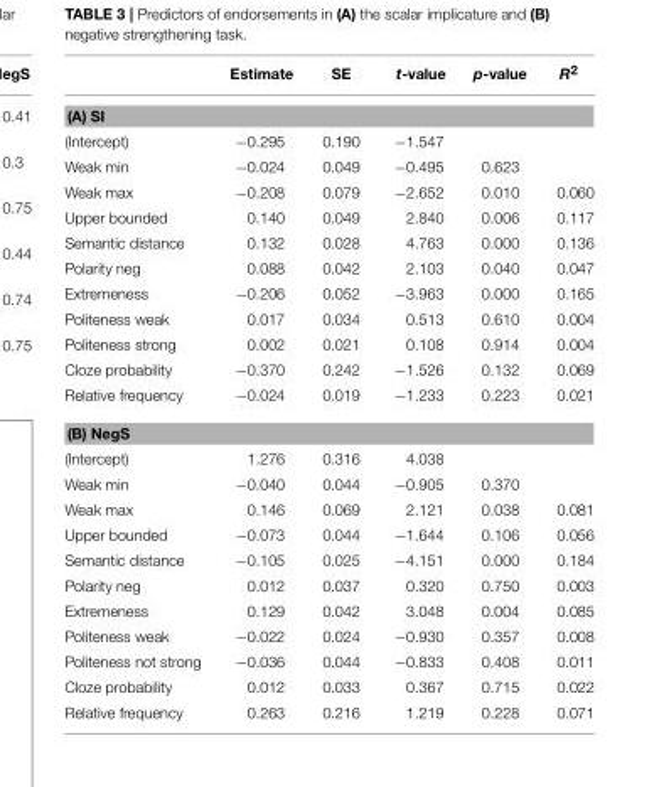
<table><thead><tr><td></td><td>Estimate</td><td>SE</td><td>t-value</td><td>p-value</td><td>R<sup>2</sup></td></tr></thead><tbody><tr><td colspan="6">(A) SI</td></tr><tr><td>(Intercept)</td><td>−0.295</td><td>0.190</td><td>−1.547</td><td></td><td></td></tr><tr><td>Weak min</td><td>−0.024</td><td>0.049</td><td>−0.495</td><td>0.623</td><td></td></tr><tr><td>Weak max</td><td>−0.208</td><td>0.079</td><td>−2.652</td><td>0.010</td><td>0.060</td></tr><tr><td>Upper bounded</td><td>0.140</td><td>0.049</td><td>2.840</td><td>0.006</td><td>0.117</td></tr><tr><td>Semantic distance</td><td>0.132</td><td>0.028</td><td>4.763</td><td>0.000</td><td>0.136</td></tr><tr><td>Polarity neg</td><td>0.088</td><td>0.042</td><td>2.103</td><td>0.040</td><td>0.047</td></tr><tr><td>Extremeness</td><td>−0.206</td><td>0.052</td><td>−3.963</td><td>0.000</td><td>0.165</td></tr><tr><td>Politeness weak</td><td>0.017</td><td>0.034</td><td>0.513</td><td>0.610</td><td>0.004</td></tr><tr><td>Politeness strong</td><td>0.002</td><td>0.021</td><td>0.108</td><td>0.914</td><td>0.004</td></tr><tr><td>Cloze probability</td><td>−0.370</td><td>0.242</td><td>−1.526</td><td>0.132</td><td>0.069</td></tr><tr><td>Relative frequency</td><td>−0.024</td><td>0.019</td><td>−1.233</td><td>0.223</td><td>0.021</td></tr><tr><td colspan="6">(B) NegS</td></tr><tr><td>(Intercept)</td><td>1.276</td><td>0.316</td><td>4.038</td><td></td><td></td></tr><tr><td>Weak min</td><td>−0.040</td><td>0.044</td><td>−0.905</td><td>0.370</td><td></td></tr><tr><td>Weak max</td><td>0.146</td><td>0.069</td><td>2.121</td><td>0.038</td><td>0.081</td></tr><tr><td>Upper bounded</td><td>−0.073</td><td>0.044</td><td>−1.644</td><td>0.106</td><td>0.056</td></tr><tr><td>Semantic distance</td><td>−0.105</td><td>0.025</td><td>−4.151</td><td>0.000</td><td>0.184</td></tr><tr><td>Polarity neg</td><td>0.012</td><td>0.037</td><td>0.320</td><td>0.750</td><td>0.003</td></tr><tr><td>Extremeness</td><td>0.129</td><td>0.042</td><td>3.048</td><td>0.004</td><td>0.085</td></tr><tr><td>Politeness weak</td><td>−0.022</td><td>0.024</td><td>−0.930</td><td>0.357</td><td>0.008</td></tr><tr><td>Politeness not strong</td><td>−0.036</td><td>0.044</td><td>−0.833</td><td>0.408</td><td>0.011</td></tr><tr><td>Cloze probability</td><td>0.012</td><td>0.033</td><td>0.367</td><td>0.715</td><td>0.022</td></tr><tr><td>Relative frequency</td><td>0.263</td><td>0.216</td><td>1.219</td><td>0.228</td><td>0.071</td></tr></tbody></table>